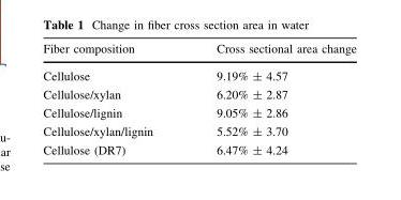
<table><thead><tr><td>Fiber composition</td><td>Cross sectional area change</td></tr></thead><tbody><tr><td>Cellulose</td><td>9.19% ± 4.57</td></tr><tr><td>Cellulose/xylan</td><td>6.20% ± 2.87</td></tr><tr><td>Cellulose/lignin</td><td>9.05% ± 2.86</td></tr><tr><td>Cellulose/xylan/lignin</td><td>5.52% ± 3.70</td></tr><tr><td>Cellulose (DR7)</td><td>6.47% ± 4.24</td></tr></tbody></table>